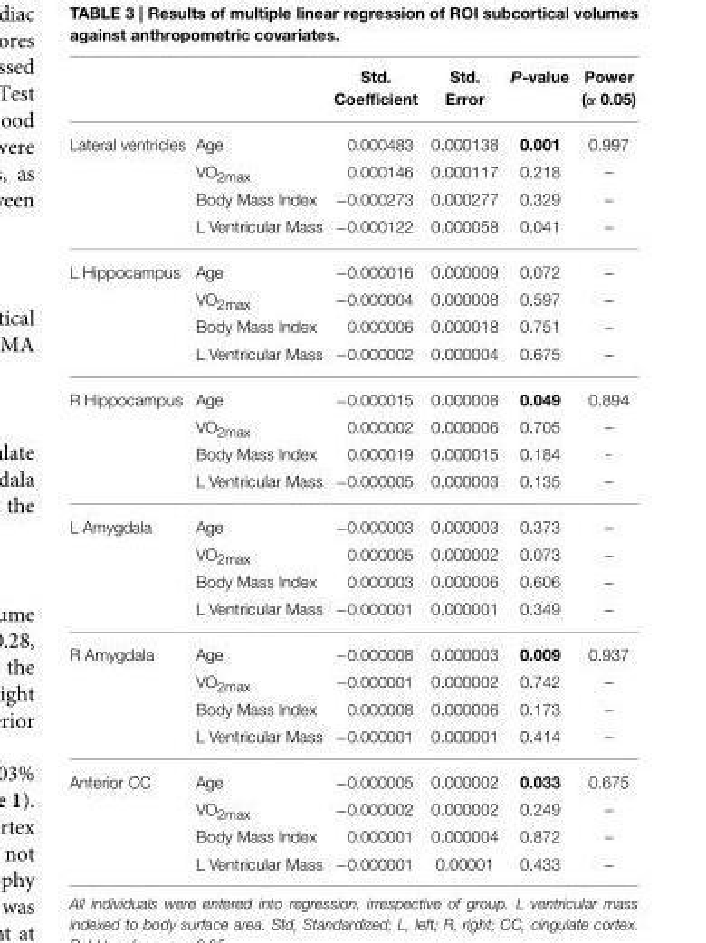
<table><thead><tr><td></td><td></td><td>Std. Coefficient</td><td>Std. Error</td><td>P-value</td><td>Power (α 0.05)</td></tr></thead><tbody><tr><td rowspan="4">Lateral ventricles</td><td>Age</td><td>0.000483</td><td>0.000138</td><td>0.001</td><td>0.997</td></tr><tr><td>VO<sub>2max</sub></td><td>0.000146</td><td>0.000117</td><td>0.218</td><td>–</td></tr><tr><td>Body Mass Index</td><td>−0.000273</td><td>0.000277</td><td>0.329</td><td>–</td></tr><tr><td>L Ventricular Mass</td><td>−0.000122</td><td>0.000058</td><td>0.041</td><td>–</td></tr><tr><td rowspan="4">L Hippocampus</td><td>Age</td><td>−0.000016</td><td>0.000009</td><td>0.072</td><td>–</td></tr><tr><td>VO<sub>2max</sub></td><td>−0.000004</td><td>0.000008</td><td>0.597</td><td>–</td></tr><tr><td>Body Mass Index</td><td>0.000006</td><td>0.000018</td><td>0.751</td><td>–</td></tr><tr><td>L Ventricular Mass</td><td>−0.000002</td><td>0.000004</td><td>0.675</td><td>–</td></tr><tr><td rowspan="4">R Hippocampus</td><td>Age</td><td>−0.000015</td><td>0.000008</td><td>0.049</td><td>0.894</td></tr><tr><td>VO<sub>2max</sub></td><td>0.000002</td><td>0.000006</td><td>0.705</td><td>–</td></tr><tr><td>Body Mass Index</td><td>0.000019</td><td>0.000015</td><td>0.184</td><td>-</td></tr><tr><td>L Ventricular Mass</td><td>−0.000005</td><td>0.000003</td><td>0.135</td><td>–</td></tr><tr><td rowspan="4">L Amygdala</td><td>Age</td><td>−0.000003</td><td>0.000003</td><td>0.373</td><td>–</td></tr><tr><td>VO<sub>2max</sub></td><td>0.000005</td><td>0.000002</td><td>0.073</td><td>–</td></tr><tr><td>Body Mass Index</td><td>0.000003</td><td>0.000006</td><td>0.606</td><td>–</td></tr><tr><td>L Ventricular Mass</td><td>−0.000001</td><td>0.000001</td><td>0.349</td><td>–</td></tr><tr><td rowspan="4">R Amygdala</td><td>Age</td><td>−0.000008</td><td>0.000003</td><td>0.009</td><td>0.937</td></tr><tr><td>VO<sub>2max</sub></td><td>−0.000001</td><td>0.000002</td><td>0.742</td><td>–</td></tr><tr><td>Body Mass Index</td><td>0.000008</td><td>0.000006</td><td>0.173</td><td>–</td></tr><tr><td>L Ventricular Mass</td><td>−0.000001</td><td>0.000001</td><td>0.414</td><td>–</td></tr><tr><td rowspan="4">Anterior CC</td><td>Age</td><td>−0.000005</td><td>0.000002</td><td>0.033</td><td>0.675</td></tr><tr><td>VO<sub>2max</sub></td><td>−0.000002</td><td>0.000002</td><td>0.249</td><td>–</td></tr><tr><td>Body Mass Index</td><td>0.000001</td><td>0.000004</td><td>0.872</td><td>–</td></tr><tr><td>L Ventricular Mass</td><td>−0.000001</td><td>0.00001</td><td>0.433</td><td>–</td></tr></tbody></table>